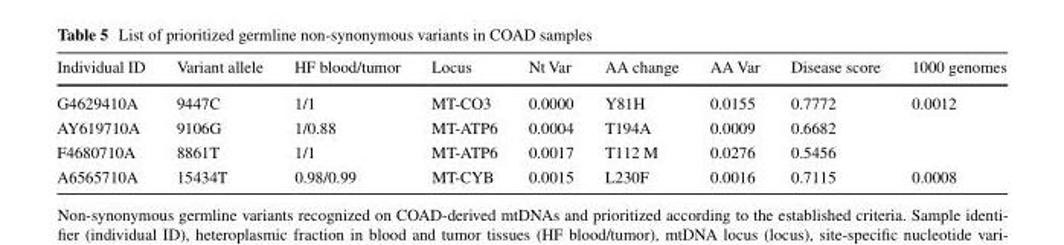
<table><thead><tr><td>Individual ID</td><td>Variant allele</td><td>HF blood/tumor</td><td>Locus</td><td>Nt Var</td><td>AA change</td><td>AA Var</td><td>Disease score</td><td>1000 genomes</td></tr></thead><tbody><tr><td>G4629410A</td><td>9447C</td><td>1/1</td><td>MT-CO3</td><td>0.0000</td><td>Y81H</td><td>0.0155</td><td>0.7772</td><td>0.0012</td></tr><tr><td>AY619710A</td><td>9106G</td><td>1/0.88</td><td>MT-ATP6</td><td>0.0004</td><td>T194A</td><td>0.0009</td><td>0.6682</td><td></td></tr><tr><td>F4680710A</td><td>8861T</td><td>1/1</td><td>MT-ATP6</td><td>0.0017</td><td>T112 M</td><td>0.0276</td><td>0.5456</td><td></td></tr><tr><td>A6565710A</td><td>15434T</td><td>0.98/0.99</td><td>MT-CYB</td><td>0.0015</td><td>L230F</td><td>0.0016</td><td>0.7115</td><td>0.0008</td></tr></tbody></table>